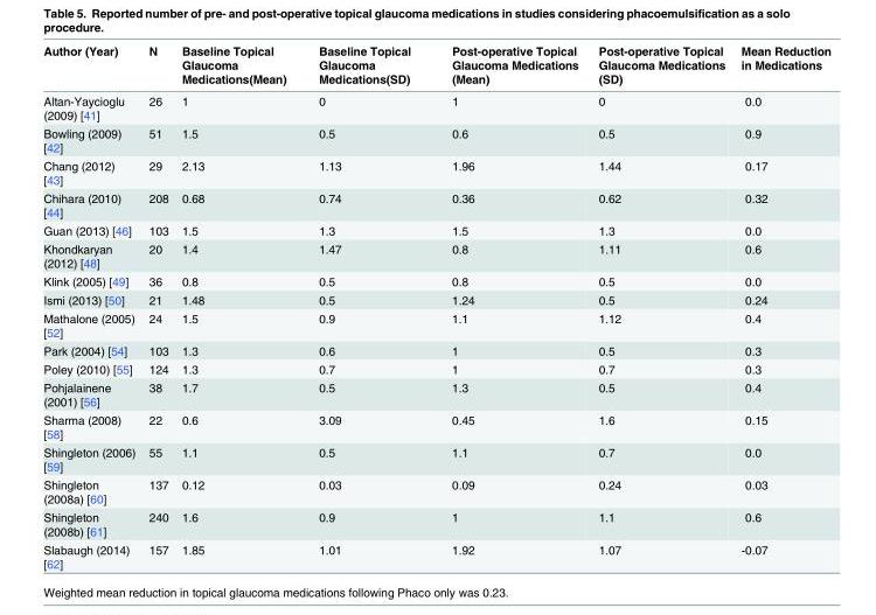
<table><thead><tr><td>Author (Year)</td><td>N</td><td>Baseline Topical Glaucoma Medications(Mean)</td><td>Baseline Topical Glaucoma Medications(SD)</td><td>Post-operative Topical Glaucoma Medications (Mean)</td><td>Post-operative Topical Glaucoma Medications (SD)</td><td>Mean Reduction in Medications</td></tr></thead><tbody><tr><td>Altan-Yaycioglu (2009) [41]</td><td>26</td><td>1</td><td>0</td><td>1</td><td>0</td><td>0.0</td></tr><tr><td>Bowling (2009) [42]</td><td>51</td><td>1.5</td><td>0.5</td><td>0.6</td><td>0.5</td><td>0.9</td></tr><tr><td>Chang (2012) [43]</td><td>29</td><td>2.13</td><td>1.13</td><td>1.96</td><td>1.44</td><td>0.17</td></tr><tr><td>Chihara (2010) [44]</td><td>208</td><td>0.68</td><td>0.74</td><td>0.36</td><td>0.62</td><td>0.32</td></tr><tr><td>Guan (2013) [46]</td><td>103</td><td>1.5</td><td>1.3</td><td>1.5</td><td>1.3</td><td>0.0</td></tr><tr><td>Khondkaryan (2012) [48]</td><td>20</td><td>1.4</td><td>1.47</td><td>0.8</td><td>1.11</td><td>0.6</td></tr><tr><td>Klink (2005) [49]</td><td>36</td><td>0.8</td><td>0.5</td><td>0.8</td><td>0.5</td><td>0.0</td></tr><tr><td>Ismi (2013) [50]</td><td>21</td><td>1.48</td><td>0.5</td><td>1.24</td><td>0.5</td><td>0.24</td></tr><tr><td>Mathalone (2005) [52]</td><td>24</td><td>1.5</td><td>0.9</td><td>1.1</td><td>1.12</td><td>0.4</td></tr><tr><td>Park (2004) [54]</td><td>103</td><td>1.3</td><td>0.6</td><td>1</td><td>0.5</td><td>0.3</td></tr><tr><td>Poley (2010) [55]</td><td>124</td><td>1.3</td><td>0.7</td><td>1</td><td>0.7</td><td>0.3</td></tr><tr><td>Pohjalainene (2001) [56]</td><td>38</td><td>1.7</td><td>0.5</td><td>1.3</td><td>0.5</td><td>0.4</td></tr><tr><td>Sharma (2008) [58]</td><td>22</td><td>0.6</td><td>3.09</td><td>0.45</td><td>1.6</td><td>0.15</td></tr><tr><td>Shingleton (2006) [59]</td><td>55</td><td>1.1</td><td>0.5</td><td>1.1</td><td>0.7</td><td>0.0</td></tr><tr><td>Shingleton (2008a) [60]</td><td>137</td><td>0.12</td><td>0.03</td><td>0.09</td><td>0.24</td><td>0.03</td></tr><tr><td>Shingleton (2008b) [61]</td><td>240</td><td>1.6</td><td>0.9</td><td>1</td><td>1.1</td><td>0.6</td></tr><tr><td>Slabaugh (2014) [62]</td><td>157</td><td>1.85</td><td>1.01</td><td>1.92</td><td>1.07</td><td>-0.07</td></tr></tbody></table>